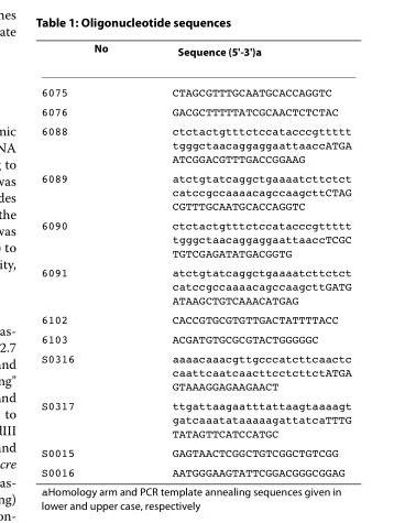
<table><thead><tr><td>No</td><td>Sequence (5&#x27;-3&#x27;)<sup>a</sup></td></tr></thead><tbody><tr><td>6075</td><td>CTAGCGTTTGCAATGCACCAGGTC</td></tr><tr><td>6076</td><td>GACGCTTTTTATCGCAACTCTCTAC</td></tr><tr><td>6088</td><td>ctctactgtttctccatacccgttttt tgggctaacaggaggaattaaccATGA ATCGGACGTTTGACCGGAAG</td></tr><tr><td>6089</td><td>atctgtatcaggctgaaaatcttctct catccgccaaaacagccaagcttCTAG CGTTTGCAATGCACCAGGTC</td></tr><tr><td>6090</td><td>ctctactgtttctccatacccgttttt tgggctaacaggaggaattaaccTCGC TGTCGAGATATGACGGTG</td></tr><tr><td>6091</td><td>atctgtatcaggctgaaaatcttctct catccgccaaaacagccaagcttGATG ATAAGCTGTCAAACATGAG</td></tr><tr><td>6102</td><td>CACCGTGCGTGTTGACTATTTTACC</td></tr><tr><td>6103</td><td>ACGATGTGCGCGTACTGGGGGC</td></tr><tr><td>S0316</td><td>aaaacaaacgttgcccatcttcaactc caattcaatcaacttcctcttctATGA GTAAAGGAGAAGAACT</td></tr><tr><td>S0317</td><td>ttgattaagaatttattaagtaaaagt gatcaaatataaaaagattatcaTTTG TATAGTTCATCCATGC</td></tr><tr><td>S0015</td><td>GAGTAACTCGGCTGTCGGCTGTCGG</td></tr><tr><td>S0016</td><td>AATGGGAAGTATTCGGACGGGCGGAG</td></tr></tbody></table>